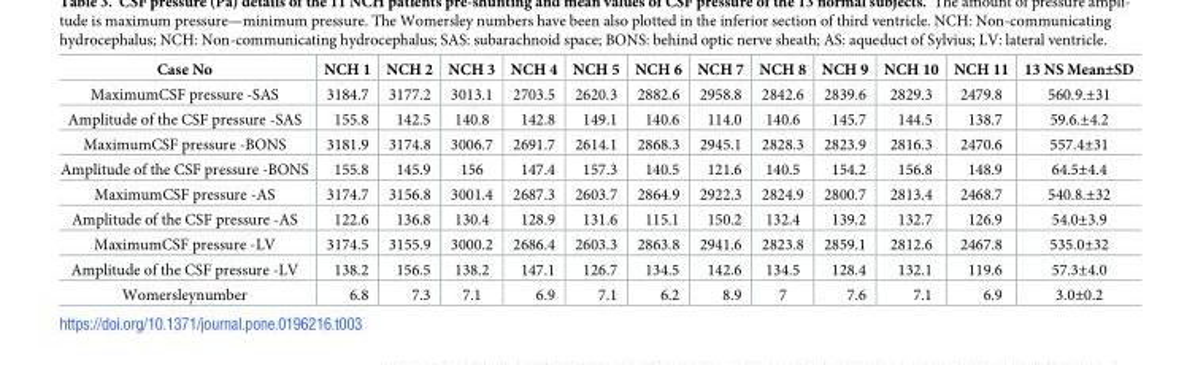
<table><thead><tr><td>Case No</td><td>NCH 1</td><td>NCH 2</td><td>NCH 3</td><td>NCH 4</td><td>NCH 5</td><td>NCH 6</td><td>NCH 7</td><td>NCH 8</td><td>NCH 9</td><td>NCH 10</td><td>NCH 11</td><td>13 NS Mean±SD</td></tr></thead><tbody><tr><td>MaximumCSF pressure -SAS</td><td>3184.7</td><td>3177.2</td><td>3013.1</td><td>2703.5</td><td>2620.3</td><td>2882.6</td><td>2958.8</td><td>2842.6</td><td>2839.6</td><td>2829.3</td><td>2479.8</td><td>560.9.±31</td></tr><tr><td>Amplitude of the CSF pressure -SAS</td><td>155.8</td><td>142.5</td><td>140.8</td><td>142.8</td><td>149.1</td><td>140.6</td><td>114.0</td><td>140.6</td><td>145.7</td><td>144.5</td><td>138.7</td><td>59.6.±4.2</td></tr><tr><td>MaximumCSF pressure -BONS</td><td>3181.9</td><td>3174.8</td><td>3006.7</td><td>2691.7</td><td>2614.1</td><td>2868.3</td><td>2945.1</td><td>2828.3</td><td>2823.9</td><td>2816.3</td><td>2470.6</td><td>557.4±31</td></tr><tr><td>Amplitude of the CSF pressure -BONS</td><td>155.8</td><td>145.9</td><td>156</td><td>147.4</td><td>157.3</td><td>140.5</td><td>121.6</td><td>140.5</td><td>154.2</td><td>156.8</td><td>148.9</td><td>64.5±4.4</td></tr><tr><td>MaximumCSF pressure -AS</td><td>3174.7</td><td>3156.8</td><td>3001.4</td><td>2687.3</td><td>2603.7</td><td>2864.9</td><td>2922.3</td><td>2824.9</td><td>2800.7</td><td>2813.4</td><td>2468.7</td><td>540.8.±32</td></tr><tr><td>Amplitude of the CSF pressure -AS</td><td>122.6</td><td>136.8</td><td>130.4</td><td>128.9</td><td>131.6</td><td>115.1</td><td>150.2</td><td>132.4</td><td>139.2</td><td>132.7</td><td>126.9</td><td>54.0±3.9</td></tr><tr><td>MaximumCSF pressure -LV</td><td>3174.5</td><td>3155.9</td><td>3000.2</td><td>2686.4</td><td>2603.3</td><td>2863.8</td><td>2941.6</td><td>2823.8</td><td>2859.1</td><td>2812.6</td><td>2467.8</td><td>535.0±32</td></tr><tr><td>Amplitude of the CSF pressure -LV</td><td>138.2</td><td>156.5</td><td>138.2</td><td>147.1</td><td>126.7</td><td>134.5</td><td>142.6</td><td>134.5</td><td>128.4</td><td>132.1</td><td>119.6</td><td>57.3±4.0</td></tr><tr><td>Womersleynumber</td><td>6.8</td><td>7.3</td><td>7.1</td><td>6.9</td><td>7.1</td><td>6.2</td><td>8.9</td><td>7</td><td>7.6</td><td>7.1</td><td>6.9</td><td>3.0±0.2</td></tr></tbody></table>